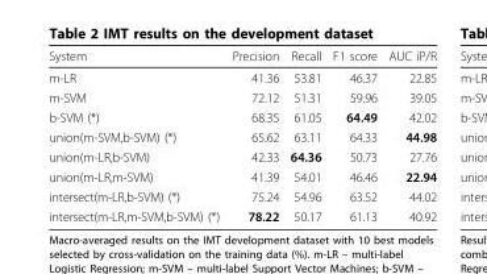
<table><thead><tr><td>System</td><td>Precision</td><td>Recall</td><td>F1 score</td><td>AUC iP/R</td></tr></thead><tbody><tr><td>m-LR</td><td>41.36</td><td>53.81</td><td>46.37</td><td>22.85</td></tr><tr><td>m-SVM</td><td>72.12</td><td>51.31</td><td>59.96</td><td>39.05</td></tr><tr><td>b-SVM (*)</td><td>68.35</td><td>61.05</td><td>64.49</td><td>42.02</td></tr><tr><td>union(m-SVM,b-SVM) (*)</td><td>65.62</td><td>63.11</td><td>64.33</td><td>44.98</td></tr><tr><td>union(m-LR,b-SVM)</td><td>42.33</td><td>64.36</td><td>50.73</td><td>27.76</td></tr><tr><td>union(m-LR,m-SVM)</td><td>41.39</td><td>54.01</td><td>46.46</td><td>22.94</td></tr><tr><td>intersect(m-LR,b-SVM) (*)</td><td>75.24</td><td>54.96</td><td>63.52</td><td>44.02</td></tr><tr><td>intersect(m-LR,m-SVM,b-SVM) (*)</td><td>78.22</td><td>50.17</td><td>61.13</td><td>40.92</td></tr></tbody></table>